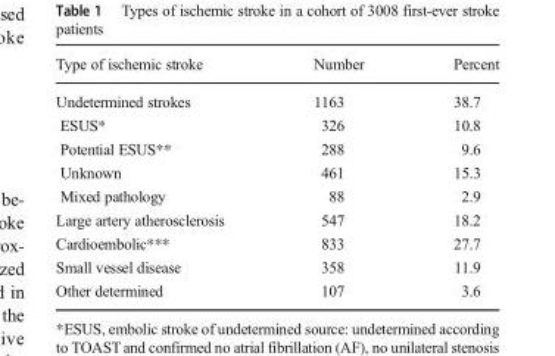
<table><thead><tr><td>Type of ischemic stroke</td><td>Number</td><td>Percent</td></tr></thead><tbody><tr><td>Undetermined strokes</td><td>1163</td><td>38.7</td></tr><tr><td>ESUS*</td><td>326</td><td>10.8</td></tr><tr><td>Potential ESUS**</td><td>288</td><td>9.6</td></tr><tr><td>Unknown</td><td>461</td><td>15.3</td></tr><tr><td>Mixed pathology</td><td>88</td><td>2.9</td></tr><tr><td>Large artery atherosclerosis</td><td>547</td><td>18.2</td></tr><tr><td>Cardioembolic***</td><td>833</td><td>27.7</td></tr><tr><td>Small vessel disease</td><td>358</td><td>11.9</td></tr><tr><td>Other determined</td><td>107</td><td>3.6</td></tr></tbody></table>